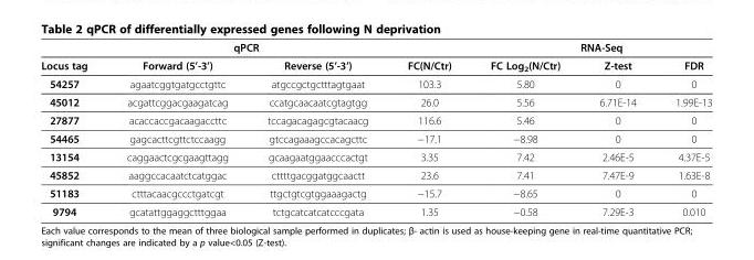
<table><thead><tr><td colspan="4">qPCR</td><td colspan="3">RNA-Seq</td></tr><tr><td>Locus tag</td><td>Forward (5’-3’)</td><td>Reverse (5’-3’)</td><td>FC(N/Ctr)</td><td>FC Log<sub>2</sub>(N/Ctr)</td><td>Z-test</td><td>FDR</td></tr></thead><tbody><tr><td>54257</td><td>agaatcggtgatgcctgttc</td><td>atgccgctgctttagtgaat</td><td>103.3</td><td>5.80</td><td>0</td><td>0</td></tr><tr><td>45012</td><td>acgattcggacgaagatcag</td><td>ccatgcaacaatcgtagtgg</td><td>26.0</td><td>5.56</td><td>6.71E-14</td><td>1.99E-13</td></tr><tr><td>27877</td><td>acaccaccgacaagaccttc</td><td>tccagacagagcgtacaacg</td><td>116.6</td><td>5.46</td><td>0</td><td>0</td></tr><tr><td>54465</td><td>gagcacttcgttctccaagg</td><td>gtccagaaagccacagcttc</td><td>−17.1</td><td>−8.98</td><td>0</td><td>0</td></tr><tr><td>13154</td><td>caggaactcgcgaagttagg</td><td>gcaagaatggaacccactgt</td><td>3.35</td><td>7.42</td><td>2.46E-5</td><td>4.37E-5</td></tr><tr><td>45852</td><td>aaggccacaatctcatggac</td><td>cttttgacggatggcaactt</td><td>23.6</td><td>7.41</td><td>7.47E-9</td><td>1.63E-8</td></tr><tr><td>51183</td><td>ctttacaacgccctgatcgt</td><td>ttgctgtcgtggaaagactg</td><td>−15.7</td><td>−8.65</td><td>0</td><td>0</td></tr><tr><td>9794</td><td>gcatattggaggctttggaa</td><td>tctgcatcatcatcccgata</td><td>1.35</td><td>−0.58</td><td>7.29E-3</td><td>0.010</td></tr></tbody></table>